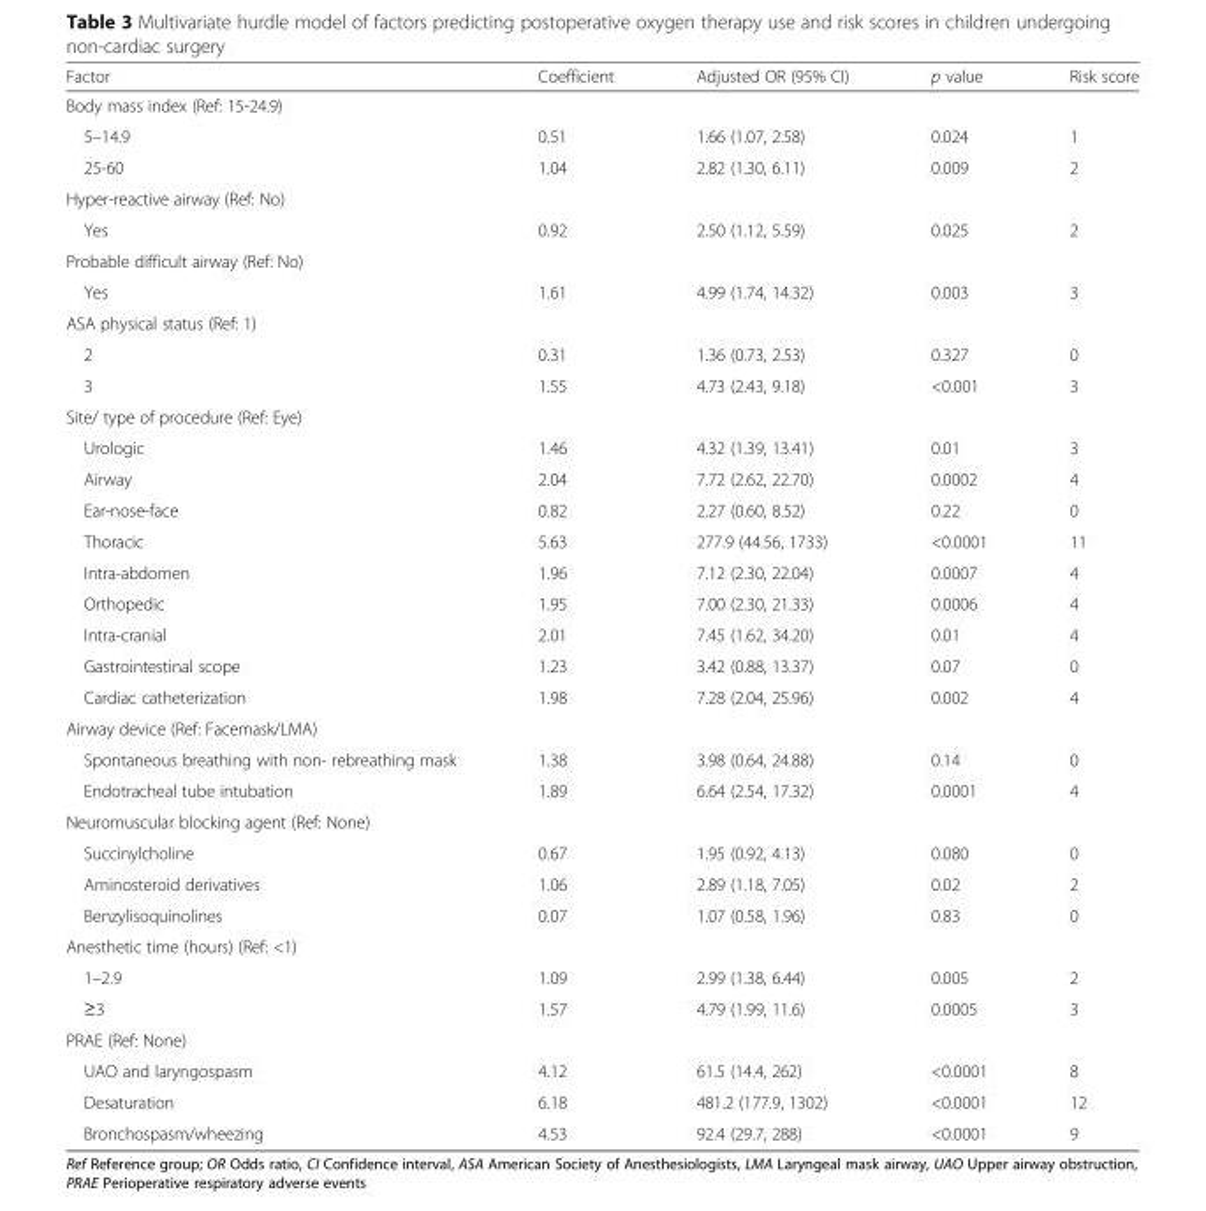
<table><thead><tr><td>Factor</td><td>Coefficient</td><td>Adjusted OR (95% CI)</td><td>p value</td><td>Risk score</td></tr></thead><tbody><tr><td colspan="5">Body mass index (Ref: 15-24.9)</td></tr><tr><td>5–14.9</td><td>0.51</td><td>1.66 (1.07, 2.58)</td><td>0.024</td><td>1</td></tr><tr><td>25-60</td><td>1.04</td><td>2.82 (1.30, 6.11)</td><td>0.009</td><td>2</td></tr><tr><td colspan="5">Hyper-reactive airway (Ref: No)</td></tr><tr><td>Yes</td><td>0.92</td><td>2.50 (1.12, 5.59)</td><td>0.025</td><td>2</td></tr><tr><td colspan="5">Probable difficult airway (Ref: No)</td></tr><tr><td>Yes</td><td>1.61</td><td>4.99 (1.74, 14.32)</td><td>0.003</td><td>3</td></tr><tr><td colspan="5">ASA physical status (Ref: 1)</td></tr><tr><td>2</td><td>0.31</td><td>1.36 (0.73, 2.53)</td><td>0.327</td><td>0</td></tr><tr><td>3</td><td>1.55</td><td>4.73 (2.43, 9.18)</td><td>&lt;0.001</td><td>3</td></tr><tr><td colspan="5">Site/ type of procedure (Ref: Eye)</td></tr><tr><td>Urologic</td><td>1.46</td><td>4.32 (1.39, 13.41)</td><td>0.01</td><td>3</td></tr><tr><td>Airway</td><td>2.04</td><td>7.72 (2.62, 22.70)</td><td>0.0002</td><td>4</td></tr><tr><td>Ear-nose-face</td><td>0.82</td><td>2.27 (0.60, 8.52)</td><td>0.22</td><td>0</td></tr><tr><td>Thoracic</td><td>5.63</td><td>277.9 (44.56, 1733)</td><td>&lt;0.0001</td><td>11</td></tr><tr><td>Intra-abdomen</td><td>1.96</td><td>7.12 (2.30, 22.04)</td><td>0.0007</td><td>4</td></tr><tr><td>Orthopedic</td><td>1.95</td><td>7.00 (2.30, 21.33)</td><td>0.0006</td><td>4</td></tr><tr><td>Intra-cranial</td><td>2.01</td><td>7.45 (1.62, 34.20)</td><td>0.01</td><td>4</td></tr><tr><td>Gastrointestinal scope</td><td>1.23</td><td>3.42 (0.88, 13.37)</td><td>0.07</td><td>0</td></tr><tr><td>Cardiac catheterization</td><td>1.98</td><td>7.28 (2.04, 25.96)</td><td>0.002</td><td>4</td></tr><tr><td colspan="5">Airway device (Ref: Facemask/LMA)</td></tr><tr><td>Spontaneous breathing with non- rebreathing mask</td><td>1.38</td><td>3.98 (0.64, 24.88)</td><td>0.14</td><td>0</td></tr><tr><td>Endotracheal tube intubation</td><td>1.89</td><td>6.64 (2.54, 17.32)</td><td>0.0001</td><td>4</td></tr><tr><td colspan="5">Neuromuscular blocking agent (Ref: None)</td></tr><tr><td>Succinylcholine</td><td>0.67</td><td>1.95 (0.92, 4.13)</td><td>0.080</td><td>0</td></tr><tr><td>Aminosteroid derivatives</td><td>1.06</td><td>2.89 (1.18, 7.05)</td><td>0.02</td><td>2</td></tr><tr><td>Benzylisoquinolines</td><td>0.07</td><td>1.07 (0.58, 1.96)</td><td>0.83</td><td>0</td></tr><tr><td colspan="5">Anesthetic time (hours) (Ref: &lt;1)</td></tr><tr><td>1–2.9</td><td>1.09</td><td>2.99 (1.38, 6.44)</td><td>0.005</td><td>2</td></tr><tr><td>≥3</td><td>1.57</td><td>4.79 (1.99, 11.6)</td><td>0.0005</td><td>3</td></tr><tr><td colspan="5">PRAE (Ref: None)</td></tr><tr><td>UAO and laryngospasm</td><td>4.12</td><td>61.5 (14.4, 262)</td><td>&lt;0.0001</td><td>8</td></tr><tr><td>Desaturation</td><td>6.18</td><td>481.2 (177.9, 1302)</td><td>&lt;0.0001</td><td>12</td></tr><tr><td>Bronchospasm/wheezing</td><td>4.53</td><td>92.4 (29.7, 288)</td><td>&lt;0.0001</td><td>9</td></tr></tbody></table>